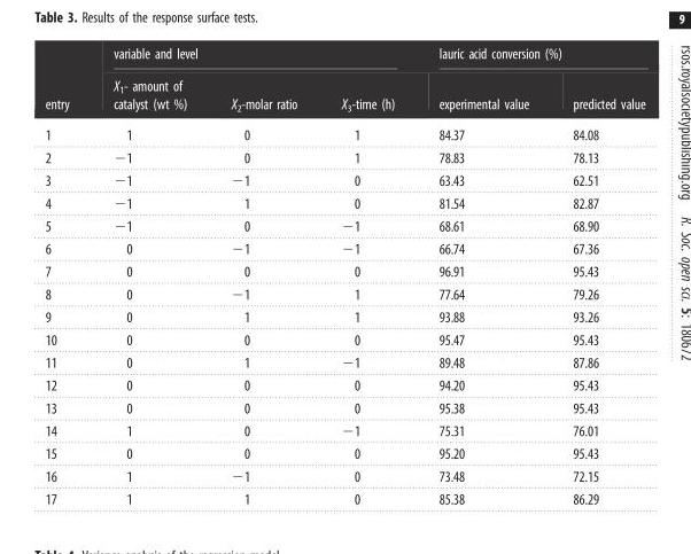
<table><thead><tr><td rowspan="2">entry</td><td colspan="3">variable and level</td><td colspan="2">lauric acid conversion (%)</td></tr><tr><td>X<sub>1</sub>- amount of catalyst (wt %)</td><td>X<sub>2</sub>-molar ratio</td><td>X<sub>3</sub>-time (h)</td><td>experimental value</td><td>predicted value</td></tr></thead><tbody><tr><td>1</td><td>1</td><td>0</td><td>1</td><td>84.37</td><td>84.08</td></tr><tr><td>2</td><td>−1</td><td>0</td><td>1</td><td>78.83</td><td>78.13</td></tr><tr><td>3</td><td>−1</td><td>−1</td><td>0</td><td>63.43</td><td>62.51</td></tr><tr><td>4</td><td>−1</td><td>1</td><td>0</td><td>81.54</td><td>82.87</td></tr><tr><td>5</td><td>−1</td><td>0</td><td>−1</td><td>68.61</td><td>68.90</td></tr><tr><td>6</td><td>0</td><td>−1</td><td>−1</td><td>66.74</td><td>67.36</td></tr><tr><td>7</td><td>0</td><td>0</td><td>0</td><td>96.91</td><td>95.43</td></tr><tr><td>8</td><td>0</td><td>−1</td><td>1</td><td>77.64</td><td>79.26</td></tr><tr><td>9</td><td>0</td><td>1</td><td>1</td><td>93.88</td><td>93.26</td></tr><tr><td>10</td><td>0</td><td>0</td><td>0</td><td>95.47</td><td>95.43</td></tr><tr><td>11</td><td>0</td><td>1</td><td>−1</td><td>89.48</td><td>87.86</td></tr><tr><td>12</td><td>0</td><td>0</td><td>0</td><td>94.20</td><td>95.43</td></tr><tr><td>13</td><td>0</td><td>0</td><td>0</td><td>95.38</td><td>95.43</td></tr><tr><td>14</td><td>1</td><td>0</td><td>−1</td><td>75.31</td><td>76.01</td></tr><tr><td>15</td><td>0</td><td>0</td><td>0</td><td>95.20</td><td>95.43</td></tr><tr><td>16</td><td>1</td><td>−1</td><td>0</td><td>73.48</td><td>72.15</td></tr><tr><td>17</td><td>1</td><td>1</td><td>0</td><td>85.38</td><td>86.29</td></tr></tbody></table>